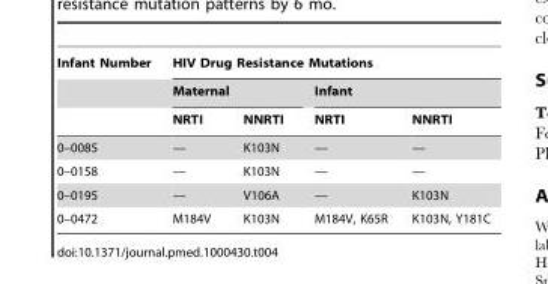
<table><thead><tr><td rowspan="3">Infant Number</td><td colspan="4">HIV Drug Resistance Mutations</td></tr><tr><td colspan="2">Maternal</td><td colspan="2">Infant</td></tr><tr><td>NRTI</td><td>NNRTI</td><td>NRTI</td><td>NNRTI</td></tr></thead><tbody><tr><td>0–0085</td><td>—</td><td>K103N</td><td>—</td><td>—</td></tr><tr><td>0–0158</td><td>—</td><td>K103N</td><td>—</td><td>—</td></tr><tr><td>0–0195</td><td>—</td><td>V106A</td><td>—</td><td>K103N</td></tr><tr><td>0–0472</td><td>M184V</td><td>K103N</td><td>M184V, K65R</td><td>K103N, Y181C</td></tr></tbody></table>